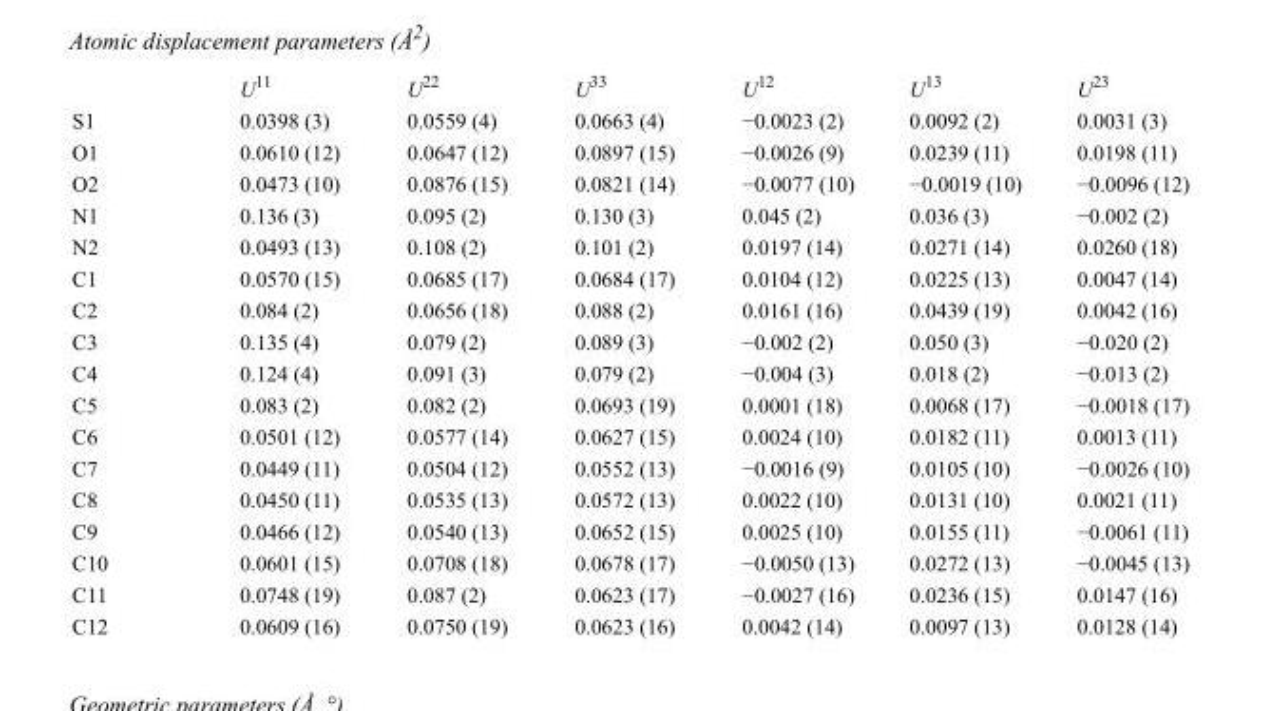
<table><thead><tr><td></td><td>U<sup>11</sup></td><td>U<sup>22</sup></td><td>U<sup>33</sup></td><td>U<sup>12</sup></td><td>U<sup>13</sup></td><td>U<sup>23</sup></td></tr></thead><tbody><tr><td>S1</td><td>0.0398 (3)</td><td>0.0559 (4)</td><td>0.0663 (4)</td><td>−0.0023 (2)</td><td>0.0092 (2)</td><td>0.0031 (3)</td></tr><tr><td>O1</td><td>0.0610 (12)</td><td>0.0647 (12)</td><td>0.0897 (15)</td><td>−0.0026 (9)</td><td>0.0239 (11)</td><td>0.0198 (11)</td></tr><tr><td>O2</td><td>0.0473 (10)</td><td>0.0876 (15)</td><td>0.0821 (14)</td><td>−0.0077 (10)</td><td>−0.0019 (10)</td><td>−0.0096 (12)</td></tr><tr><td>N1</td><td>0.136 (3)</td><td>0.095 (2)</td><td>0.130 (3)</td><td>0.045 (2)</td><td>0.036 (3)</td><td>−0.002 (2)</td></tr><tr><td>N2</td><td>0.0493 (13)</td><td>0.108 (2)</td><td>0.101 (2)</td><td>0.0197 (14)</td><td>0.0271 (14)</td><td>0.0260 (18)</td></tr><tr><td>C1</td><td>0.0570 (15)</td><td>0.0685 (17)</td><td>0.0684 (17)</td><td>0.0104 (12)</td><td>0.0225 (13)</td><td>0.0047 (14)</td></tr><tr><td>C2</td><td>0.084 (2)</td><td>0.0656 (18)</td><td>0.088 (2)</td><td>0.0161 (16)</td><td>0.0439 (19)</td><td>0.0042 (16)</td></tr><tr><td>C3</td><td>0.135 (4)</td><td>0.079 (2)</td><td>0.089 (3)</td><td>−0.002 (2)</td><td>0.050 (3)</td><td>−0.020 (2)</td></tr><tr><td>C4</td><td>0.124 (4)</td><td>0.091 (3)</td><td>0.079 (2)</td><td>−0.004 (3)</td><td>0.018 (2)</td><td>−0.013 (2)</td></tr><tr><td>C5</td><td>0.083 (2)</td><td>0.082 (2)</td><td>0.0693 (19)</td><td>0.0001 (18)</td><td>0.0068 (17)</td><td>−0.0018 (17)</td></tr><tr><td>C6</td><td>0.0501 (12)</td><td>0.0577 (14)</td><td>0.0627 (15)</td><td>0.0024 (10)</td><td>0.0182 (11)</td><td>0.0013 (11)</td></tr><tr><td>C7</td><td>0.0449 (11)</td><td>0.0504 (12)</td><td>0.0552 (13)</td><td>−0.0016 (9)</td><td>0.0105 (10)</td><td>−0.0026 (10)</td></tr><tr><td>C8</td><td>0.0450 (11)</td><td>0.0535 (13)</td><td>0.0572 (13)</td><td>0.0022 (10)</td><td>0.0131 (10)</td><td>0.0021 (11)</td></tr><tr><td>C9</td><td>0.0466 (12)</td><td>0.0540 (13)</td><td>0.0652 (15)</td><td>0.0025 (10)</td><td>0.0155 (11)</td><td>−0.0061 (11)</td></tr><tr><td>C10</td><td>0.0601 (15)</td><td>0.0708 (18)</td><td>0.0678 (17)</td><td>−0.0050 (13)</td><td>0.0272 (13)</td><td>−0.0045 (13)</td></tr><tr><td>C11</td><td>0.0748 (19)</td><td>0.087 (2)</td><td>0.0623 (17)</td><td>−0.0027 (16)</td><td>0.0236 (15)</td><td>0.0147 (16)</td></tr><tr><td>C12</td><td>0.0609 (16)</td><td>0.0750 (19)</td><td>0.0623 (16)</td><td>0.0042 (14)</td><td>0.0097 (13)</td><td>0.0128 (14)</td></tr></tbody></table>